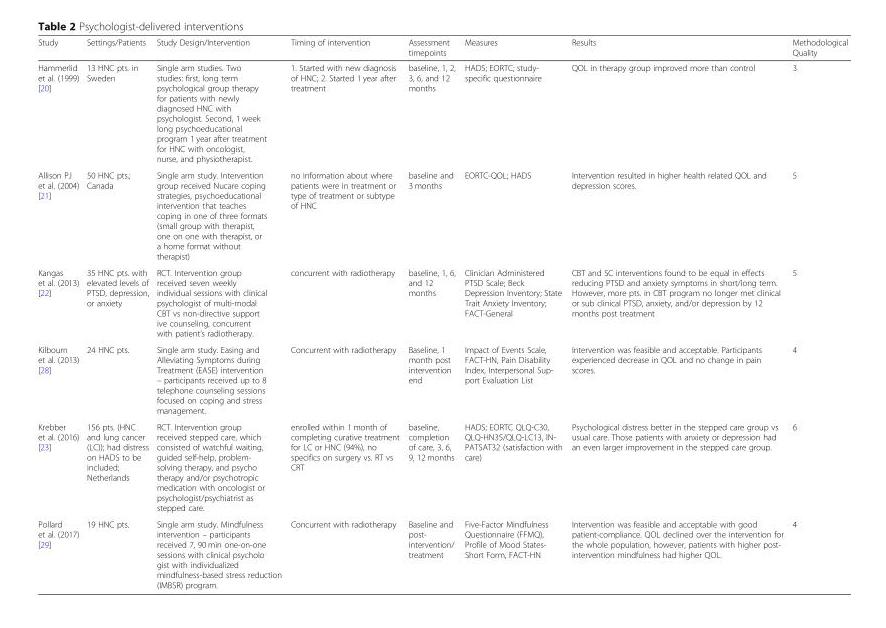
<table><thead><tr><td>Study</td><td>Settings/Patients</td><td>Study Design/Intervention</td><td>Timing of intervention</td><td>Assessment timepoints</td><td>Measures</td><td>Results</td><td>Methodological Quality</td></tr></thead><tbody><tr><td>Hammerlid et al. (1999) [20]</td><td>13 HNC pts. in Sweden</td><td>Single arm studies. Two studies: first, long term psychological group therapy for patients with newly diagnosed HNC with psychologist. Second, 1 week long psychoeducational program 1 year after treatment for HNC with oncologist, nurse, and physiotherapist.</td><td>1. Started with new diagnosis of HNC; 2. Started 1 year after treatment</td><td>baseline, 1, 2, 3, 6, and 12 months</td><td>HADS; EORTC; study- specific questionnaire</td><td>QOL in therapy group improved more than control</td><td>3</td></tr><tr><td>Allison PJ et al. (2004) [21]</td><td>50 HNC pts.; Canada</td><td>Single arm study. Intervention group received Nucare coping strategies, psychoeducational intervention that teaches coping in one of three formats (small group with therapist, one on one with therapist, or a home format without therapist)</td><td>no information about where patients were in treatment or type of treatment or subtype of HNC</td><td>baseline and 3 months</td><td>EORTC-QOL; HADS</td><td>Intervention resulted in higher health related QOL and depression scores.</td><td>5</td></tr><tr><td>Kangas et al. (2013) [22]</td><td>35 HNC pts. with elevated levels of PTSD, depression, or anxiety</td><td>RCT. Intervention group received seven weekly individual sessions with clinical psychologist of multi-modal CBT vs non-directive support ive counseling, concurrent with patient’s radiotherapy.</td><td>concurrent with radiotherapy</td><td>baseline, 1, 6, and 12 months</td><td>Clinician Administered PTSD Scale; Beck Depression Inventory; State Trait Anxiety Inventory; FACT-General</td><td>CBT and SC interventions found to be equal in effects reducing PTSD and anxiety symptoms in short/long term. However, more pts. in CBT program no longer met clinical or sub clinical PTSD, anxiety, and/or depression by 12 months post treatment</td><td>5</td></tr><tr><td>Kilbourn et al. (2013) [28]</td><td>24 HNC pts.</td><td>Single arm study. Easing and Alleviating Symptoms during Treatment (EASE) intervention – participants received up to 8 telephone counseling sessions focused on coping and stress management.</td><td>Concurrent with radiotherapy</td><td>Baseline, 1 month post intervention end</td><td>Impact of Events Scale, FACT-HN, Pain Disability Index, Interpersonal Sup- port Evaluation List</td><td>Intervention was feasible and acceptable. Participants experienced decrease in QOL and no change in pain scores.</td><td>4</td></tr><tr><td>Krebber et al. (2016) [23]</td><td>156 pts. (HNC and lung cancer (LC)); had distress on HADS to be included; Netherlands</td><td>RCT. Intervention group received stepped care, which consisted of watchful waiting, guided self-help, problem- solving therapy, and psycho therapy and/or psychotropic medication with oncologist or psychologist/psychiatrist as stepped care.</td><td>enrolled within 1 month of completing curative treatment for LC or HNC (94%), no specifics on surgery vs. RT vs CRT</td><td>baseline, completion of care, 3, 6, 9, 12 months</td><td>HADS; EORTC QLQ-C30, QLQ-HN35/QLQ-LC13, IN- PATSAT32 (satisfaction with care)</td><td>Psychological distress better in the stepped care group vs usual care. Those patients with anxiety or depression had an even larger improvement in the stepped care group.</td><td>6</td></tr><tr><td>Pollard et al. (2017) [29]</td><td>19 HNC pts.</td><td>Single arm study. Mindfulness intervention – participants received 7, 90 min one-on-one sessions with clinical psycholo gist with individualized mindfulness-based stress reduction (IMBSR) program.</td><td>Concurrent with radiotherapy</td><td>Baseline and post- intervention/ treatment</td><td>Five-Factor Mindfulness Questionnaire (FFMQ), Profile of Mood States- Short Form, FACT-HN</td><td>Intervention was feasible and acceptable with good patient-compliance. QOL declined over the intervention for the whole population, however, patients with higher post- intervention mindfulness had higher QOL.</td><td>4</td></tr></tbody></table>